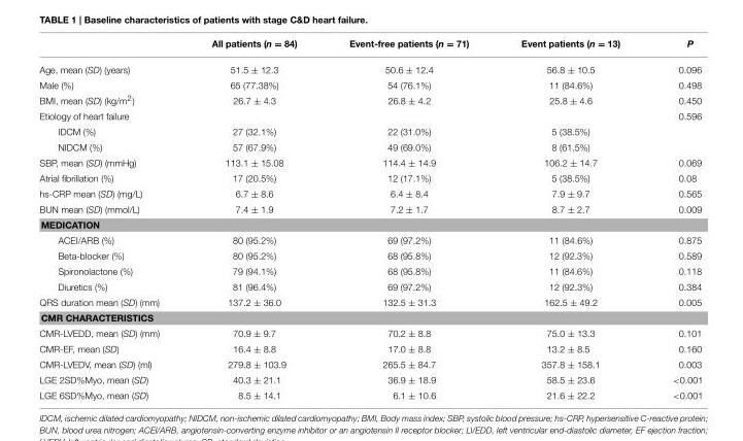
<table><thead><tr><td></td><td>All patients (n = 84)</td><td>Event-free patients (n = 71)</td><td>Event patients (n = 13)</td><td>P</td></tr></thead><tbody><tr><td>Age, mean (SD) (years)</td><td>51.5 ± 12.3</td><td>50.6 ± 12.4</td><td>56.8 ± 10.5</td><td>0.096</td></tr><tr><td>Male (%)</td><td>65 (77.38%)</td><td>54 (76.1%)</td><td>11 (84.6%)</td><td>0.498</td></tr><tr><td>BMI, mean (SD) (kg/m<sup>2</sup>)</td><td>26.7 ± 4.3</td><td>26.8 ± 4.2</td><td>25.8 ± 4.6</td><td>0.450</td></tr><tr><td>Etiology of heart failure</td><td></td><td></td><td></td><td>0.596</td></tr><tr><td>IDCM (%)</td><td>27 (32.1%)</td><td>22 (31.0%)</td><td>5 (38.5%)</td><td></td></tr><tr><td>NIDCM (%)</td><td>57 (67.9%)</td><td>49 (69.0%)</td><td>8 (61.5%)</td><td></td></tr><tr><td>SBP, mean (SD) (mmHg)</td><td>113.1 ± 15.08</td><td>114.4 ± 14.9</td><td>106.2 ± 14.7</td><td>0.069</td></tr><tr><td>Atrial fibrillation (%)</td><td>17 (20.5%)</td><td>12 (17.1%)</td><td>5 (38.5%)</td><td>0.08</td></tr><tr><td>hs-CRP mean (SD) (mg/L)</td><td>6.7 ± 8.6</td><td>6.4 ± 8.4</td><td>7.9 ± 9.7</td><td>0.565</td></tr><tr><td>BUN mean (SD) (mmol/L)</td><td>7.4 ± 1.9</td><td>7.2 ± 1.7</td><td>8.7 ± 2.7</td><td>0.009</td></tr><tr><td colspan="5">MEDICATION</td></tr><tr><td>ACEI/ARB (%)</td><td>80 (95.2%)</td><td>69 (97.2%)</td><td>11 (84.6%)</td><td>0.875</td></tr><tr><td>Beta-blocker (%)</td><td>80 (95.2%)</td><td>68 (95.8%)</td><td>12 (92.3%)</td><td>0.589</td></tr><tr><td>Spironolactone (%)</td><td>79 (94.1%)</td><td>68 (95.8%)</td><td>11 (84.6%)</td><td>0.118</td></tr><tr><td>Diuretics (%)</td><td>81 (96.4%)</td><td>69 (97.2%)</td><td>12 (92.3%)</td><td>0.384</td></tr><tr><td>QRS duration mean (SD) (mm)</td><td>137.2 ± 36.0</td><td>132.5 ± 31.3</td><td>162.5 ± 49.2</td><td>0.005</td></tr><tr><td colspan="5">CMR CHARACTERISTICS</td></tr><tr><td>CMR-LVEDD, mean (SD) (mm)</td><td>70.9 ± 9.7</td><td>70.2 ± 8.8</td><td>75.0 ± 13.3</td><td>0.101</td></tr><tr><td>CMR-EF, mean (SD)</td><td>16.4 ± 8.8</td><td>17.0 ± 8.8</td><td>13.2 ± 8.5</td><td>0.160</td></tr><tr><td>CMR-LVEDV, mean (SD) (ml)</td><td>279.8 ± 103.9</td><td>265.5 ± 84.7</td><td>357.8 ± 158.1</td><td>0.003</td></tr><tr><td>LGE 2SD%Myo, mean (SD)</td><td>40.3 ± 21.1</td><td>36.9 ± 18.9</td><td>58.5 ± 23.6</td><td>&lt;0.001</td></tr><tr><td>LGE 6SD%Myo, mean (SD)</td><td>8.5 ± 14.1</td><td>6.1 ± 10.6</td><td>21.6 ± 22.2</td><td>&lt;0.001</td></tr></tbody></table>